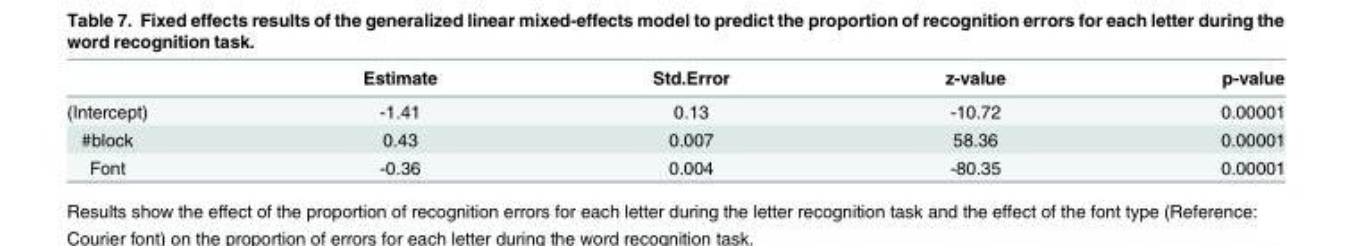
<table><thead><tr><td></td><td>Estimate</td><td>Std.Error</td><td>z-value</td><td>p-value</td></tr></thead><tbody><tr><td>(Intercept)</td><td>-1.41</td><td>0.13</td><td>-10.72</td><td>0.00001</td></tr><tr><td>#block</td><td>0.43</td><td>0.007</td><td>58.36</td><td>0.00001</td></tr><tr><td>Font</td><td>-0.36</td><td>0.004</td><td>-80.35</td><td>0.00001</td></tr></tbody></table>